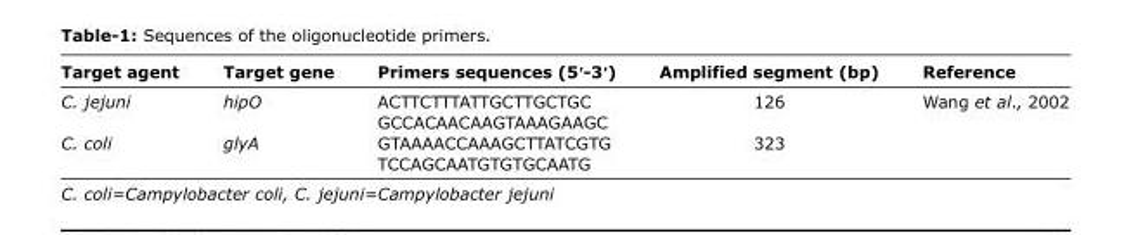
<table><thead><tr><td>Target agent</td><td>Target gene</td><td>Primers sequences (5ʹ-3ʹ)</td><td>Amplified segment (bp)</td><td>Reference</td></tr></thead><tbody><tr><td rowspan="2">C. jejuni</td><td>hipO</td><td>ACTTCTTTATTGCTTGCTGC</td><td>126</td><td>Wang et al., 2002</td></tr><tr><td></td><td>GCCACAACAAGTAAAGAAGC</td><td></td><td></td></tr><tr><td rowspan="2">C. coli</td><td>glyA</td><td>GTAAAACCAAAGCTTATCGTG</td><td>323</td><td></td></tr><tr><td></td><td>TCCAGCAATGTGTGCAATG</td><td></td><td></td></tr></tbody></table>